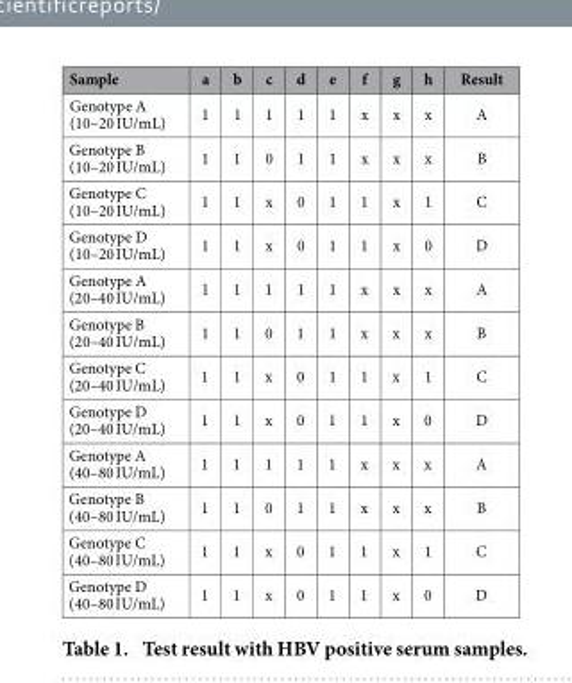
<table><thead><tr><td>Sample</td><td>a</td><td>b</td><td>c</td><td>d</td><td>e</td><td>f</td><td>g</td><td>h</td><td>Result</td></tr></thead><tbody><tr><td>Genotype A (10–20 IU/mL)</td><td>1</td><td>1</td><td>1</td><td>1</td><td>1</td><td>x</td><td>x</td><td>x</td><td>A</td></tr><tr><td>Genotype B (10–20 IU/mL)</td><td>1</td><td>1</td><td>0</td><td>1</td><td>1</td><td>x</td><td>x</td><td>x</td><td>B</td></tr><tr><td>Genotype C (10–20 IU/mL)</td><td>1</td><td>1</td><td>x</td><td>0</td><td>1</td><td>1</td><td>x</td><td>1</td><td>C</td></tr><tr><td>Genotype D (10–20 IU/mL)</td><td>1</td><td>1</td><td>x</td><td>0</td><td>1</td><td>1</td><td>x</td><td>0</td><td>D</td></tr><tr><td>Genotype A (20–40 IU/mL)</td><td>1</td><td>1</td><td>1</td><td>1</td><td>1</td><td>x</td><td>x</td><td>x</td><td>A</td></tr><tr><td>Genotype B (20–40 IU/mL)</td><td>1</td><td>1</td><td>0</td><td>1</td><td>1</td><td>x</td><td>x</td><td>x</td><td>B</td></tr><tr><td>Genotype C (20–40 IU/mL)</td><td>1</td><td>1</td><td>x</td><td>0</td><td>1</td><td>1</td><td>x</td><td>1</td><td>C</td></tr><tr><td>Genotype D (20–40 IU/mL)</td><td>1</td><td>1</td><td>x</td><td>0</td><td>1</td><td>1</td><td>x</td><td>0</td><td>D</td></tr><tr><td>Genotype A (40–80 IU/mL)</td><td>1</td><td>1</td><td>1</td><td>1</td><td>1</td><td>x</td><td>x</td><td>x</td><td>A</td></tr><tr><td>Genotype B (40–80 IU/mL)</td><td>1</td><td>1</td><td>0</td><td>1</td><td>1</td><td>x</td><td>x</td><td>x</td><td>B</td></tr><tr><td>Genotype C (40–80 IU/mL)</td><td>1</td><td>1</td><td>x</td><td>0</td><td>1</td><td>1</td><td>x</td><td>1</td><td>C</td></tr><tr><td>Genotype D (40–80 IU/mL)</td><td>1</td><td>1</td><td>x</td><td>0</td><td>1</td><td>1</td><td>x</td><td>0</td><td>D</td></tr></tbody></table>